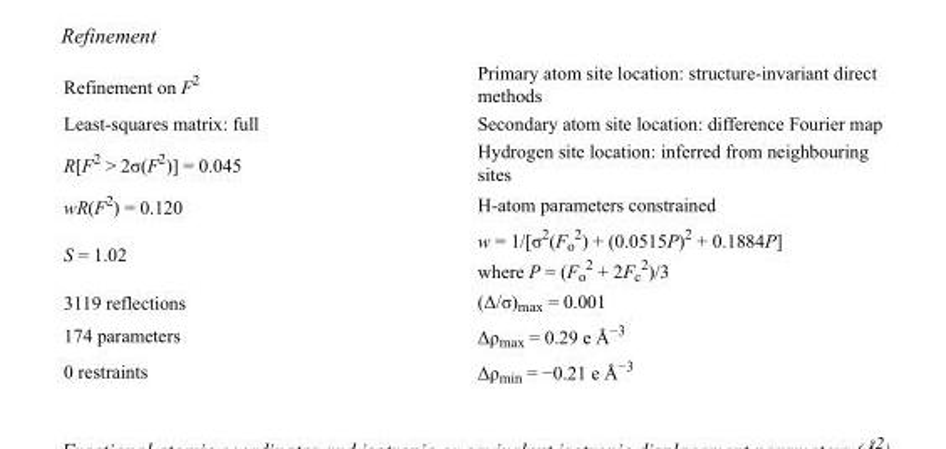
<table><tbody><tr><td>Refinement on F<sup>2</sup></td><td>Primary atom site location: structure-invariant direct methods</td></tr><tr><td>Least-squares matrix: full</td><td>Secondary atom site location: difference Fourier map</td></tr><tr><td>R[F<sup>2</sup> &gt; 2σ(F<sup>2</sup>)] = 0.045</td><td>Hydrogen site location: inferred from neighbouring sites</td></tr><tr><td>wR(F<sup>2</sup>) = 0.120</td><td>H-atom parameters constrained</td></tr><tr><td>S = 1.02</td><td>w = 1/[σ<sup>2</sup>(F<sub>o</sub> <sup>2</sup>) + (0.0515P)<sup>2</sup> + 0.1884P] where P = (F<sub>o</sub> <sup>2</sup> + 2F<sub>c</sub> <sup>2</sup>)/3</td></tr><tr><td>3119 reflections</td><td>(Δ/σ)<sub>max</sub> = 0.001</td></tr><tr><td>174 parameters</td><td>Δρ<sub>max</sub> = 0.29 e Å<sup>−3</sup></td></tr><tr><td>0 restraints</td><td>Δρ<sub>min</sub> = −0.21 e Å<sup>−3</sup></td></tr></tbody></table>